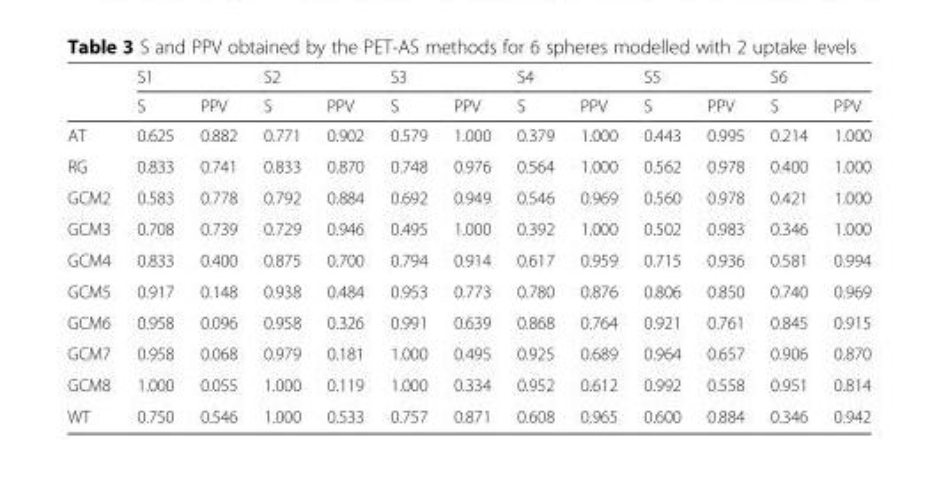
<table><thead><tr><td rowspan="2"></td><td colspan="2">S1</td><td colspan="2">S2</td><td colspan="2">S3</td><td colspan="2">S4</td><td colspan="2">S5</td><td colspan="2">S6</td></tr><tr><td>S</td><td>PPV</td><td>S</td><td>PPV</td><td>S</td><td>PPV</td><td>S</td><td>PPV</td><td>S</td><td>PPV</td><td>S</td><td>PPV</td></tr></thead><tbody><tr><td>AT</td><td>0.625</td><td>0.882</td><td>0.771</td><td>0.902</td><td>0.579</td><td>1.000</td><td>0.379</td><td>1.000</td><td>0.443</td><td>0.995</td><td>0.214</td><td>1.000</td></tr><tr><td>RG</td><td>0.833</td><td>0.741</td><td>0.833</td><td>0.870</td><td>0.748</td><td>0.976</td><td>0.564</td><td>1.000</td><td>0.562</td><td>0.978</td><td>0.400</td><td>1.000</td></tr><tr><td>GCM2</td><td>0.583</td><td>0.778</td><td>0.792</td><td>0.884</td><td>0.692</td><td>0.949</td><td>0.546</td><td>0.969</td><td>0.560</td><td>0.978</td><td>0.421</td><td>1.000</td></tr><tr><td>GCM3</td><td>0.708</td><td>0.739</td><td>0.729</td><td>0.946</td><td>0.495</td><td>1.000</td><td>0.392</td><td>1.000</td><td>0.502</td><td>0.983</td><td>0.346</td><td>1.000</td></tr><tr><td>GCM4</td><td>0.833</td><td>0.400</td><td>0.875</td><td>0.700</td><td>0.794</td><td>0.914</td><td>0.617</td><td>0.959</td><td>0.715</td><td>0.936</td><td>0.581</td><td>0.994</td></tr><tr><td>GCM5</td><td>0.917</td><td>0.148</td><td>0.938</td><td>0.484</td><td>0.953</td><td>0.773</td><td>0.780</td><td>0.876</td><td>0.806</td><td>0.850</td><td>0.740</td><td>0.969</td></tr><tr><td>GCM6</td><td>0.958</td><td>0.096</td><td>0.958</td><td>0.326</td><td>0.991</td><td>0.639</td><td>0.868</td><td>0.764</td><td>0.921</td><td>0.761</td><td>0.845</td><td>0.915</td></tr><tr><td>GCM7</td><td>0.958</td><td>0.068</td><td>0.979</td><td>0.181</td><td>1.000</td><td>0.495</td><td>0.925</td><td>0.689</td><td>0.964</td><td>0.657</td><td>0.906</td><td>0.870</td></tr><tr><td>GCM8</td><td>1.000</td><td>0.055</td><td>1.000</td><td>0.119</td><td>1.000</td><td>0.334</td><td>0.952</td><td>0.612</td><td>0.992</td><td>0.558</td><td>0.951</td><td>0.814</td></tr><tr><td>WT</td><td>0.750</td><td>0.546</td><td>1.000</td><td>0.533</td><td>0.757</td><td>0.871</td><td>0.608</td><td>0.965</td><td>0.600</td><td>0.884</td><td>0.346</td><td>0.942</td></tr></tbody></table>